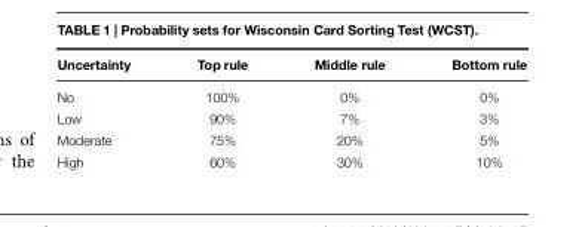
<table><thead><tr><td>Uncertainty</td><td>Top rule</td><td>Middle rule</td><td>Bottom rule</td></tr></thead><tbody><tr><td>No</td><td>100%</td><td>0%</td><td>0%</td></tr><tr><td>Low</td><td>90%</td><td>7%</td><td>3%</td></tr><tr><td>Moderate</td><td>75%</td><td>20%</td><td>5%</td></tr><tr><td>High</td><td>60%</td><td>30%</td><td>10%</td></tr></tbody></table>